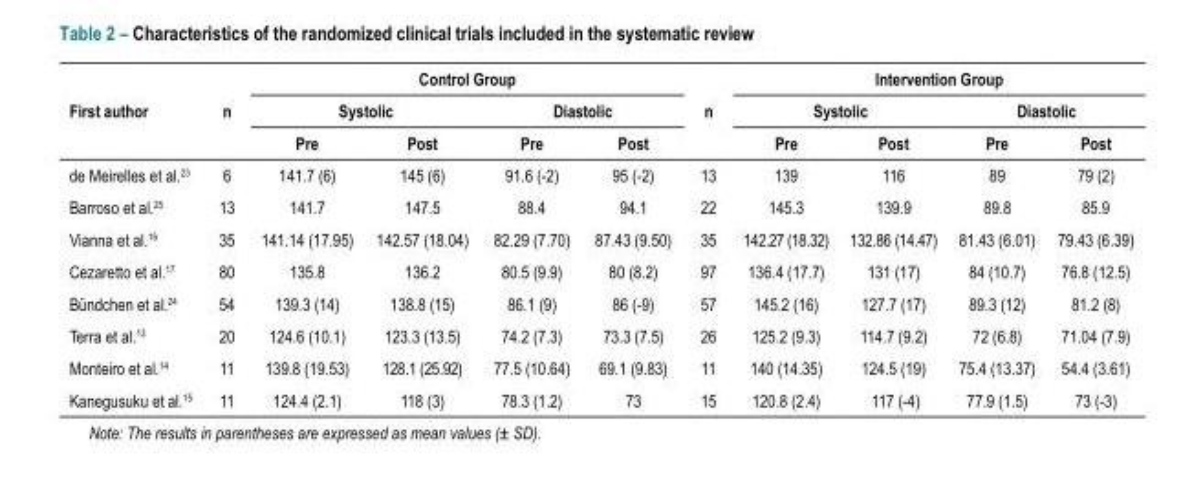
<table><thead><tr><td rowspan="3">First author</td><td rowspan="3">n</td><td colspan="4">Control Group</td><td rowspan="3">n</td><td colspan="4">Intervention Group</td></tr><tr><td colspan="2">Systolic</td><td colspan="2">Diastolic</td><td colspan="2">Systolic</td><td colspan="2">Diastolic</td></tr><tr><td>Pre</td><td>Post</td><td>Pre</td><td>Post</td><td>Pre</td><td>Post</td><td>Pre</td><td>Post</td></tr></thead><tbody><tr><td>de Meirelles et al.<sup>23</sup></td><td>6</td><td>141.7 (6)</td><td>145 (6)</td><td>91.6 (-2)</td><td>95 (-2)</td><td>13</td><td>139</td><td>116</td><td>89</td><td>79 (2)</td></tr><tr><td>Barroso et al.<sup>25</sup></td><td>13</td><td>141.7</td><td>147.5</td><td>88.4</td><td>94.1</td><td>22</td><td>145.3</td><td>139.9</td><td>89.8</td><td>85.9</td></tr><tr><td>Vianna et al.<sup>16</sup></td><td>35</td><td>141.14 (17.95)</td><td>142.57 (18.04)</td><td>82.29 (7.70)</td><td>87.43 (9.50)</td><td>35</td><td>142.27 (18.32)</td><td>132.86 (14.47)</td><td>81.43 (6.01)</td><td>79.43 (6.39)</td></tr><tr><td>Cezaretto et al.<sup>17</sup></td><td>80</td><td>135.8</td><td>136.2</td><td>80.5 (9.9)</td><td>80 (8.2)</td><td>97</td><td>136.4 (17.7)</td><td>131 (17)</td><td>84 (10.7)</td><td>76.8 (12.5)</td></tr><tr><td>Bündchen et al.<sup>24</sup></td><td>54</td><td>139.3 (14)</td><td>138.8 (15)</td><td>86.1 (9)</td><td>86 (-9)</td><td>57</td><td>145.2 (16)</td><td>127.7 (17)</td><td>89.3 (12)</td><td>81.2 (8)</td></tr><tr><td>Terra et al.<sup>13</sup></td><td>20</td><td>124.6 (10.1)</td><td>123.3 (13.5)</td><td>74.2 (7.3)</td><td>73.3 (7.5)</td><td>26</td><td>125.2 (9.3)</td><td>114.7 (9.2)</td><td>72 (6.8)</td><td>71.04 (7.9)</td></tr><tr><td>Monteiro et al.<sup>14</sup></td><td>11</td><td>139.8 (19.53)</td><td>128.1 (25.92)</td><td>77.5 (10.64)</td><td>69.1 (9.83)</td><td>11</td><td>140 (14.35)</td><td>124.5 (19)</td><td>75.4 (13.37)</td><td>54.4 (3.61)</td></tr><tr><td>Kanegusuku et al.<sup>15</sup></td><td>11</td><td>124.4 (2.1)</td><td>118 (3)</td><td>78.3 (1.2)</td><td>73</td><td>15</td><td>120.8 (2.4)</td><td>117 (-4)</td><td>77.9 (1.5)</td><td>73 (-3)</td></tr></tbody></table>